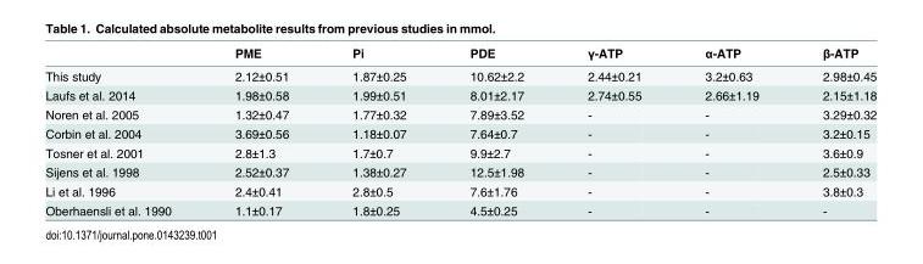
<table><thead><tr><td></td><td>PME</td><td>Pi</td><td>PDE</td><td>γ-ATP</td><td>α-ATP</td><td>β-ATP</td></tr></thead><tbody><tr><td>This study</td><td>2.12±0.51</td><td>1.87±0.25</td><td>10.62±2.2</td><td>2.44±0.21</td><td>3.2±0.63</td><td>2.98±0.45</td></tr><tr><td>Laufs et al. 2014</td><td>1.98±0.58</td><td>1.99±0.51</td><td>8.01±2.17</td><td>2.74±0.55</td><td>2.66±1.19</td><td>2.15±1.18</td></tr><tr><td>Noren et al. 2005</td><td>1.32±0.47</td><td>1.77±0.32</td><td>7.89±3.52</td><td>-</td><td>-</td><td>3.29±0.32</td></tr><tr><td>Corbin et al. 2004</td><td>3.69±0.56</td><td>1.18±0.07</td><td>7.64±0.7</td><td>-</td><td>-</td><td>3.2±0.15</td></tr><tr><td>Tosner et al. 2001</td><td>2.8±1.3</td><td>1.7±0.7</td><td>9.9±2.7</td><td>-</td><td>-</td><td>3.6±0.9</td></tr><tr><td>Sijens et al. 1998</td><td>2.52±0.37</td><td>1.38±0.27</td><td>12.5±1.98</td><td>-</td><td>-</td><td>2.5±0.33</td></tr><tr><td>Li et al. 1996</td><td>2.4±0.41</td><td>2.8±0.5</td><td>7.6±1.76</td><td>-</td><td>-</td><td>3.8±0.3</td></tr><tr><td>Oberhaensli et al. 1990</td><td>1.1±0.17</td><td>1.8±0.25</td><td>4.5±0.25</td><td>-</td><td>-</td><td>-</td></tr></tbody></table>